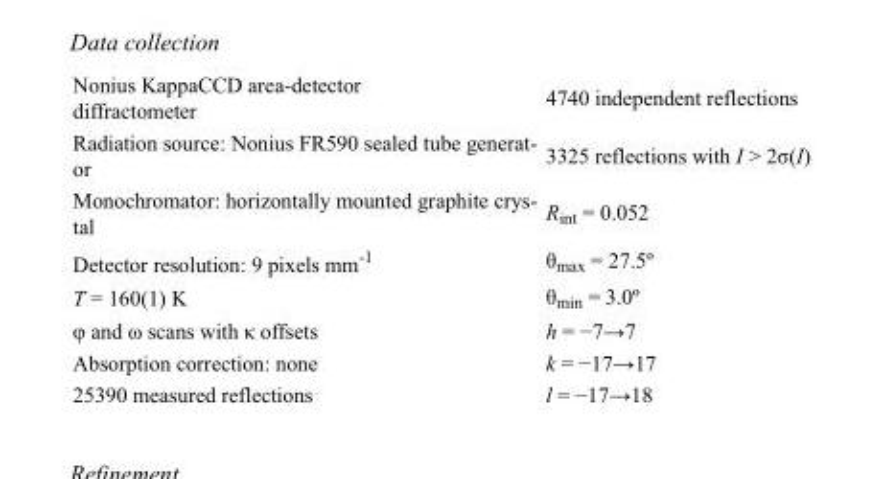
<table><tbody><tr><td>Nonius KappaCCD area-detector diffractometer</td><td>4740 independent reflections</td></tr><tr><td>Radiation source: Nonius FR590 sealed tube generat- or</td><td>3325 reflections with I &gt; 2σ(I)</td></tr><tr><td>Monochromator: horizontally mounted graphite crys- tal</td><td>R<sub>int</sub> = 0.052</td></tr><tr><td>Detector resolution: 9 pixels mm<sup>-1</sup></td><td>θ<sub>max</sub> = 27.5º</td></tr><tr><td>T = 160(1) K</td><td>θ<sub>min</sub> = 3.0º</td></tr><tr><td>φ and ω scans with κ offsets</td><td>h = −7→7</td></tr><tr><td>Absorption correction: none</td><td>k = −17→17</td></tr><tr><td>25390 measured reflections</td><td>l = −17→18</td></tr></tbody></table>